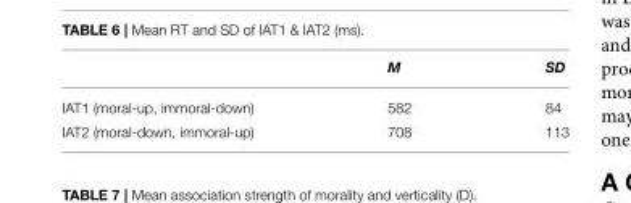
<table><thead><tr><td></td><td>M</td><td>SD</td></tr></thead><tbody><tr><td>IAT1 (moral-up, immoral-down)</td><td>582</td><td>84</td></tr><tr><td>IAT2 (moral-down, immoral-up)</td><td>708</td><td>113</td></tr></tbody></table>